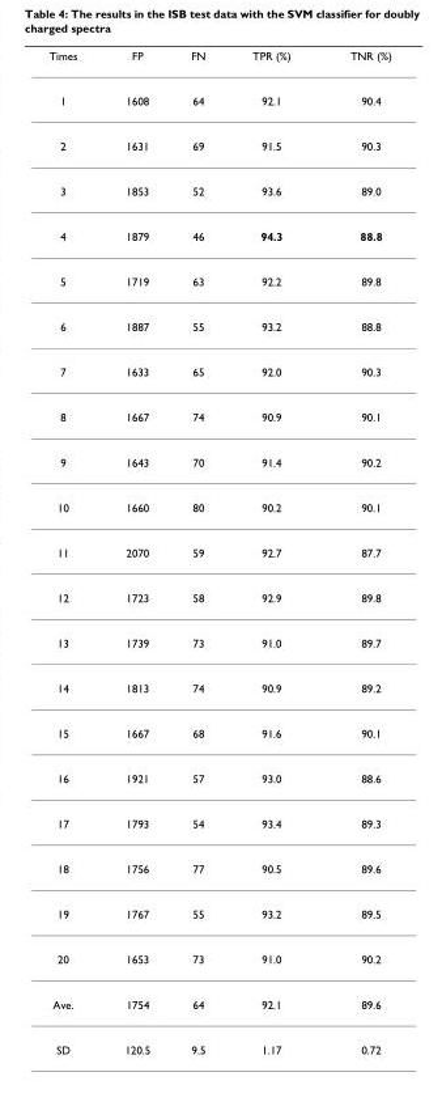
<table><thead><tr><td>Times</td><td>FP</td><td>FN</td><td>TPR (%)</td><td>TNR (%)</td></tr></thead><tbody><tr><td>1</td><td>1608</td><td>64</td><td>92.1</td><td>90.4</td></tr><tr><td>2</td><td>1631</td><td>69</td><td>91.5</td><td>90.3</td></tr><tr><td>3</td><td>1853</td><td>52</td><td>93.6</td><td>89.0</td></tr><tr><td>4</td><td>1879</td><td>46</td><td>94.3</td><td>88.8</td></tr><tr><td>5</td><td>1719</td><td>63</td><td>92.2</td><td>89.8</td></tr><tr><td>6</td><td>1887</td><td>55</td><td>93.2</td><td>88.8</td></tr><tr><td>7</td><td>1633</td><td>65</td><td>92.0</td><td>90.3</td></tr><tr><td>8</td><td>1667</td><td>74</td><td>90.9</td><td>90.1</td></tr><tr><td>9</td><td>1643</td><td>70</td><td>91.4</td><td>90.2</td></tr><tr><td>10</td><td>1660</td><td>80</td><td>90.2</td><td>90.1</td></tr><tr><td>11</td><td>2070</td><td>59</td><td>92.7</td><td>87.7</td></tr><tr><td>12</td><td>1723</td><td>58</td><td>92.9</td><td>89.8</td></tr><tr><td>13</td><td>1739</td><td>73</td><td>91.0</td><td>89.7</td></tr><tr><td>14</td><td>1813</td><td>74</td><td>90.9</td><td>89.2</td></tr><tr><td>15</td><td>1667</td><td>68</td><td>91.6</td><td>90.1</td></tr><tr><td>16</td><td>1921</td><td>57</td><td>93.0</td><td>88.6</td></tr><tr><td>17</td><td>1793</td><td>54</td><td>93.4</td><td>89.3</td></tr><tr><td>18</td><td>1756</td><td>77</td><td>90.5</td><td>89.6</td></tr><tr><td>19</td><td>1767</td><td>55</td><td>93.2</td><td>89.5</td></tr><tr><td>20</td><td>1653</td><td>73</td><td>91.0</td><td>90.2</td></tr><tr><td>Ave.</td><td>1754</td><td>64</td><td>92.1</td><td>89.6</td></tr><tr><td>SD</td><td>120.5</td><td>9.5</td><td>1.17</td><td>0.72</td></tr></tbody></table>